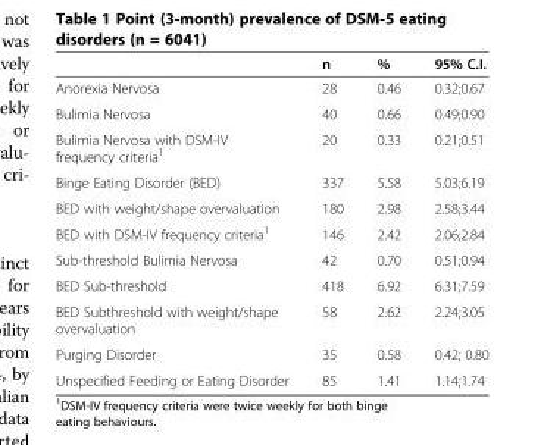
<table><thead><tr><td></td><td>n</td><td>%</td><td>95% C.I.</td></tr></thead><tbody><tr><td>Anorexia Nervosa</td><td>28</td><td>0.46</td><td>0.32;0.67</td></tr><tr><td>Bulimia Nervosa</td><td>40</td><td>0.66</td><td>0.49;0.90</td></tr><tr><td>Bulimia Nervosa with DSM-IV frequency criteria<sup>1</sup></td><td>20</td><td>0.33</td><td>0.21;0.51</td></tr><tr><td>Binge Eating Disorder (BED)</td><td>337</td><td>5.58</td><td>5.03;6.19</td></tr><tr><td>BED with weight/shape overvaluation</td><td>180</td><td>2.98</td><td>2.58;3.44</td></tr><tr><td>BED with DSM-IV frequency criteria<sup>1</sup></td><td>146</td><td>2.42</td><td>2.06;2.84</td></tr><tr><td>Sub-threshold Bulimia Nervosa</td><td>42</td><td>0.70</td><td>0.51;0.94</td></tr><tr><td>BED Sub-threshold</td><td>418</td><td>6.92</td><td>6.31;7.59</td></tr><tr><td>BED Subthreshold with weight/shape overvaluation</td><td>58</td><td>2.62</td><td>2.24;3.05</td></tr><tr><td>Purging Disorder</td><td>35</td><td>0.58</td><td>0.42; 0.80</td></tr><tr><td>Unspecified Feeding or Eating Disorder</td><td>85</td><td>1.41</td><td>1.14;1.74</td></tr></tbody></table>